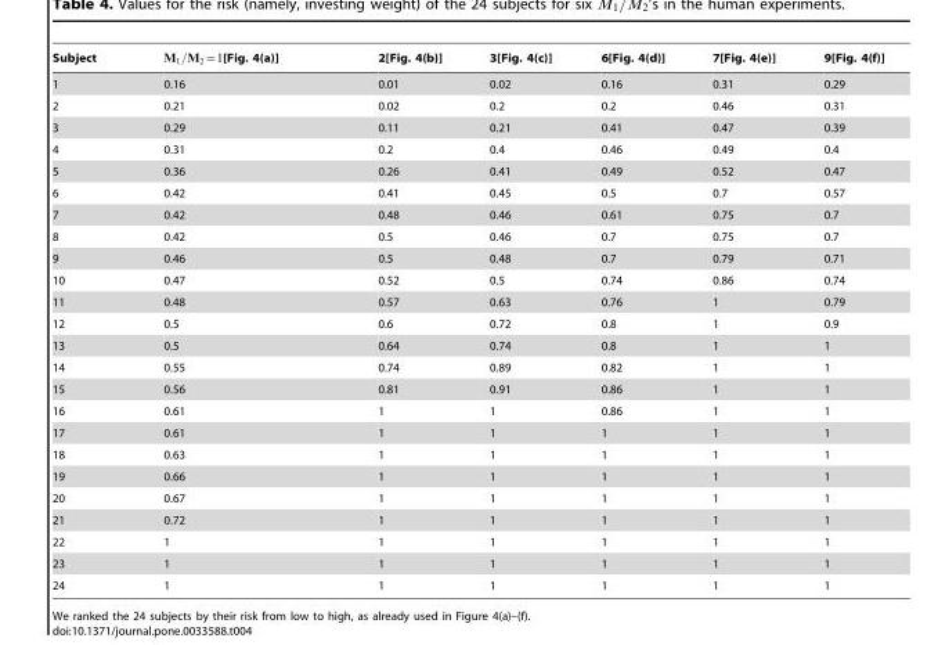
<table><thead><tr><td>Subject</td><td>M1=M2~1[Fig. 4(a)]</td><td>2[Fig. 4(b)]</td><td>3[Fig. 4(c)]</td><td>6[Fig. 4(d)]</td><td>7[Fig. 4(e)]</td><td>9[Fig. 4(f)]</td></tr></thead><tbody><tr><td>1</td><td>0.16</td><td>0.01</td><td>0.02</td><td>0.16</td><td>0.31</td><td>0.29</td></tr><tr><td>2</td><td>0.21</td><td>0.02</td><td>0.2</td><td>0.2</td><td>0.46</td><td>0.31</td></tr><tr><td>3</td><td>0.29</td><td>0.11</td><td>0.21</td><td>0.41</td><td>0.47</td><td>0.39</td></tr><tr><td>4</td><td>0.31</td><td>0.2</td><td>0.4</td><td>0.46</td><td>0.49</td><td>0.4</td></tr><tr><td>5</td><td>0.36</td><td>0.26</td><td>0.41</td><td>0.49</td><td>0.52</td><td>0.47</td></tr><tr><td>6</td><td>0.42</td><td>0.41</td><td>0.45</td><td>0.5</td><td>0.7</td><td>0.57</td></tr><tr><td>7</td><td>0.42</td><td>0.48</td><td>0.46</td><td>0.61</td><td>0.75</td><td>0.7</td></tr><tr><td>8</td><td>0.42</td><td>0.5</td><td>0.46</td><td>0.7</td><td>0.75</td><td>0.7</td></tr><tr><td>9</td><td>0.46</td><td>0.5</td><td>0.48</td><td>0.7</td><td>0.79</td><td>0.71</td></tr><tr><td>10</td><td>0.47</td><td>0.52</td><td>0.5</td><td>0.74</td><td>0.86</td><td>0.74</td></tr><tr><td>11</td><td>0.48</td><td>0.57</td><td>0.63</td><td>0.76</td><td>1</td><td>0.79</td></tr><tr><td>12</td><td>0.5</td><td>0.6</td><td>0.72</td><td>0.8</td><td>1</td><td>0.9</td></tr><tr><td>13</td><td>0.5</td><td>0.64</td><td>0.74</td><td>0.8</td><td>1</td><td>1</td></tr><tr><td>14</td><td>0.55</td><td>0.74</td><td>0.89</td><td>0.82</td><td>1</td><td>1</td></tr><tr><td>15</td><td>0.56</td><td>0.81</td><td>0.91</td><td>0.86</td><td>1</td><td>1</td></tr><tr><td>16</td><td>0.61</td><td>1</td><td>1</td><td>0.86</td><td>1</td><td>1</td></tr><tr><td>17</td><td>0.61</td><td>1</td><td>1</td><td>1</td><td>1</td><td>1</td></tr><tr><td>18</td><td>0.63</td><td>1</td><td>1</td><td>1</td><td>1</td><td>1</td></tr><tr><td>19</td><td>0.66</td><td>1</td><td>1</td><td>1</td><td>1</td><td>1</td></tr><tr><td>20</td><td>0.67</td><td>1</td><td>1</td><td>1</td><td>1</td><td>1</td></tr><tr><td>21</td><td>0.72</td><td>1</td><td>1</td><td>1</td><td>1</td><td>1</td></tr><tr><td>22</td><td>1</td><td>1</td><td>1</td><td>1</td><td>1</td><td>1</td></tr><tr><td>23</td><td>1</td><td>1</td><td>1</td><td>1</td><td>1</td><td>1</td></tr><tr><td>24</td><td>1</td><td>1</td><td>1</td><td>1</td><td>1</td><td>1</td></tr></tbody></table>